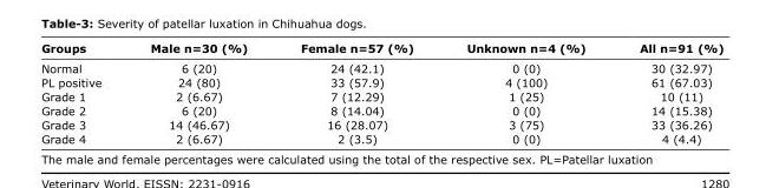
<table><thead><tr><td>Groups</td><td>Male n=30 (%)</td><td>Female n=57 (%)</td><td>Unknown n=4 (%)</td><td>All n=91 (%)</td></tr></thead><tbody><tr><td>Normal</td><td>6 (20)</td><td>24 (42.1)</td><td>0 (0)</td><td>30 (32.97)</td></tr><tr><td>PL positive</td><td>24 (80)</td><td>33 (57.9)</td><td>4 (100)</td><td>61 (67.03)</td></tr><tr><td>Grade 1</td><td>2 (6.67)</td><td>7 (12.29)</td><td>1 (25)</td><td>10 (11)</td></tr><tr><td>Grade 2</td><td>6 (20)</td><td>8 (14.04)</td><td>0 (0)</td><td>14 (15.38)</td></tr><tr><td>Grade 3</td><td>14 (46.67)</td><td>16 (28.07)</td><td>3 (75)</td><td>33 (36.26)</td></tr><tr><td>Grade 4</td><td>2 (6.67)</td><td>2 (3.5)</td><td>0 (0)</td><td>4 (4.4)</td></tr></tbody></table>